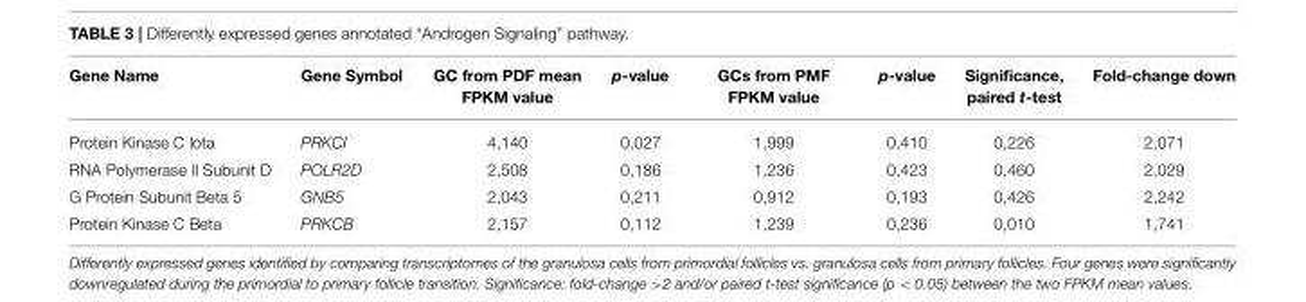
<table><thead><tr><td>Gene Name</td><td>Gene Symbol</td><td>GC from PDF mean FPKM value</td><td>p-value</td><td>GCs from PMF FPKM value</td><td>p-value</td><td>Significance, paired t-test</td><td>Fold-change down</td></tr></thead><tbody><tr><td>Protein Kinase C Iota</td><td>PRKCI</td><td>4,140</td><td>0,027</td><td>1,999</td><td>0,410</td><td>0,226</td><td>2,071</td></tr><tr><td>RNA Polymerase II Subunit D</td><td>POLR2D</td><td>2,508</td><td>0,186</td><td>1,236</td><td>0,423</td><td>0,460</td><td>2,029</td></tr><tr><td>G Protein Subunit Beta 5</td><td>GNB5</td><td>2,043</td><td>0,211</td><td>0,912</td><td>0,193</td><td>0,426</td><td>2,242</td></tr><tr><td>Protein Kinase C Beta</td><td>PRKCB</td><td>2,157</td><td>0,112</td><td>1,239</td><td>0,236</td><td>0,010</td><td>1,741</td></tr></tbody></table>